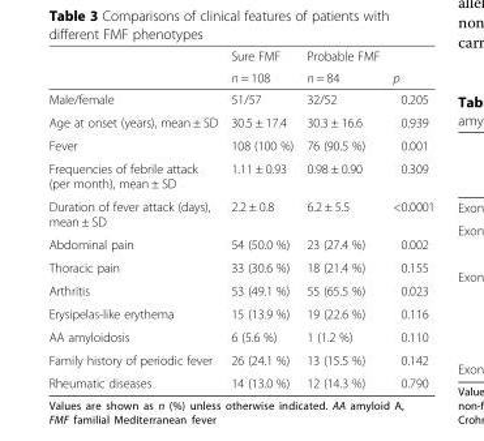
<table><thead><tr><td rowspan="2"></td><td rowspan="2">Sure FMF n = 108</td><td rowspan="2">Probable FMF n = 84</td><td rowspan="2">p</td></tr><tr></tr></thead><tbody><tr><td>Male/female</td><td>51/57</td><td>32/52</td><td>0.205</td></tr><tr><td>Age at onset (years), mean ± SD</td><td>30.5 ± 17.4</td><td>30.3 ± 16.6</td><td>0.939</td></tr><tr><td>Fever</td><td>108 (100 %)</td><td>76 (90.5 %)</td><td>0.001</td></tr><tr><td>Frequencies of febrile attack (per month), mean ± SD</td><td>1.11 ± 0.93</td><td>0.98 ± 0.90</td><td>0.309</td></tr><tr><td>Duration of fever attack (days), mean ± SD</td><td>2.2 ± 0.8</td><td>6.2 ± 5.5</td><td>&lt;0.0001</td></tr><tr><td>Abdominal pain</td><td>54 (50.0 %)</td><td>23 (27.4 %)</td><td>0.002</td></tr><tr><td>Thoracic pain</td><td>33 (30.6 %)</td><td>18 (21.4 %)</td><td>0.155</td></tr><tr><td>Arthritis</td><td>53 (49.1 %)</td><td>55 (65.5 %)</td><td>0.023</td></tr><tr><td>Erysipelas-like erythema</td><td>15 (13.9 %)</td><td>19 (22.6 %)</td><td>0.116</td></tr><tr><td>AA amyloidosis</td><td>6 (5.6 %)</td><td>1 (1.2 %)</td><td>0.110</td></tr><tr><td>Family history of periodic fever</td><td>26 (24.1 %)</td><td>13 (15.5 %)</td><td>0.142</td></tr><tr><td>Rheumatic diseases</td><td>14 (13.0 %)</td><td>12 (14.3 %)</td><td>0.790</td></tr></tbody></table>